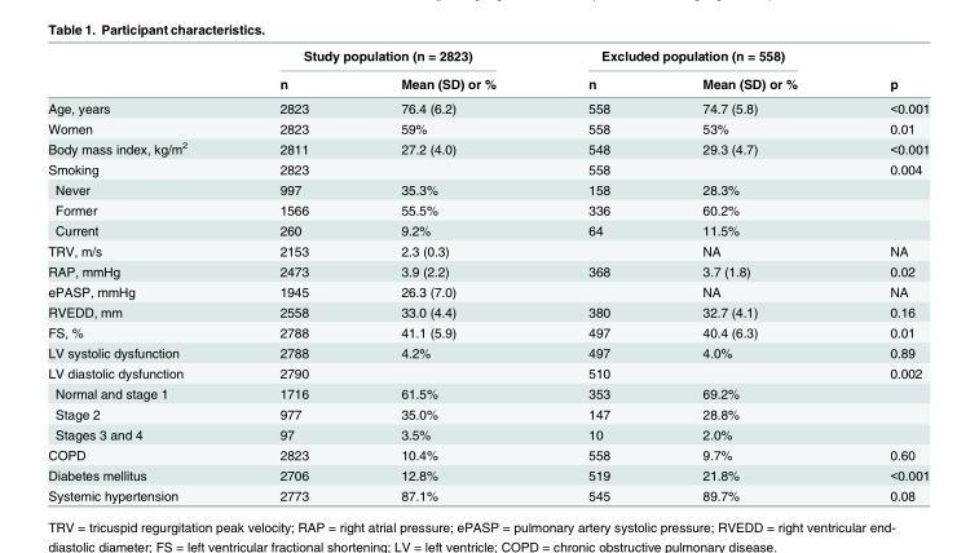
<table><thead><tr><td rowspan="2"></td><td colspan="2">Study population (n = 2823)</td><td colspan="2">Excluded population (n = 558)</td><td rowspan="2">p</td></tr><tr><td>n</td><td>Mean (SD) or %</td><td>n</td><td>Mean (SD) or %</td></tr></thead><tbody><tr><td>Age, years</td><td>2823</td><td>76.4 (6.2)</td><td>558</td><td>74.7 (5.8)</td><td>&lt;0.001</td></tr><tr><td>Women</td><td>2823</td><td>59%</td><td>558</td><td>53%</td><td>0.01</td></tr><tr><td>Body mass index, kg/m<sup>2</sup></td><td>2811</td><td>27.2 (4.0)</td><td>548</td><td>29.3 (4.7)</td><td>&lt;0.001</td></tr><tr><td>Smoking</td><td>2823</td><td></td><td>558</td><td></td><td>0.004</td></tr><tr><td>Never</td><td>997</td><td>35.3%</td><td>158</td><td>28.3%</td><td></td></tr><tr><td>Former</td><td>1566</td><td>55.5%</td><td>336</td><td>60.2%</td><td></td></tr><tr><td>Current</td><td>260</td><td>9.2%</td><td>64</td><td>11.5%</td><td></td></tr><tr><td>TRV, m/s</td><td>2153</td><td>2.3 (0.3)</td><td></td><td>NA</td><td>NA</td></tr><tr><td>RAP, mmHg</td><td>2473</td><td>3.9 (2.2)</td><td>368</td><td>3.7 (1.8)</td><td>0.02</td></tr><tr><td>ePASP, mmHg</td><td>1945</td><td>26.3 (7.0)</td><td></td><td>NA</td><td>NA</td></tr><tr><td>RVEDD, mm</td><td>2558</td><td>33.0 (4.4)</td><td>380</td><td>32.7 (4.1)</td><td>0.16</td></tr><tr><td>FS, %</td><td>2788</td><td>41.1 (5.9)</td><td>497</td><td>40.4 (6.3)</td><td>0.01</td></tr><tr><td>LV systolic dysfunction</td><td>2788</td><td>4.2%</td><td>497</td><td>4.0%</td><td>0.89</td></tr><tr><td>LV diastolic dysfunction</td><td>2790</td><td></td><td>510</td><td></td><td>0.002</td></tr><tr><td>Normal and stage 1</td><td>1716</td><td>61.5%</td><td>353</td><td>69.2%</td><td></td></tr><tr><td>Stage 2</td><td>977</td><td>35.0%</td><td>147</td><td>28.8%</td><td></td></tr><tr><td>Stages 3 and 4</td><td>97</td><td>3.5%</td><td>10</td><td>2.0%</td><td></td></tr><tr><td>COPD</td><td>2823</td><td>10.4%</td><td>558</td><td>9.7%</td><td>0.60</td></tr><tr><td>Diabetes mellitus</td><td>2706</td><td>12.8%</td><td>519</td><td>21.8%</td><td>&lt;0.001</td></tr><tr><td>Systemic hypertension</td><td>2773</td><td>87.1%</td><td>545</td><td>89.7%</td><td>0.08</td></tr></tbody></table>